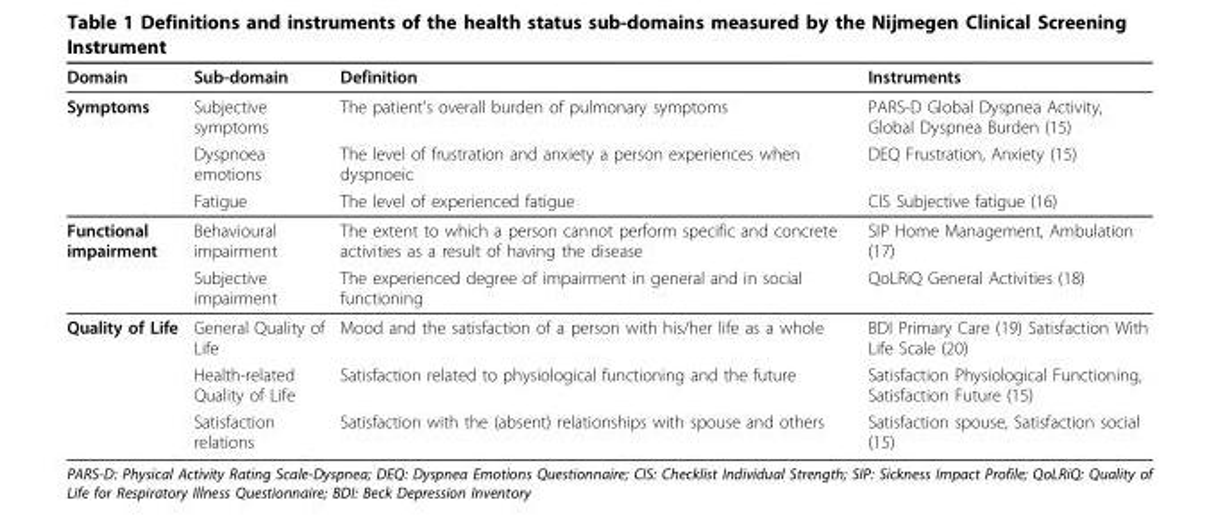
<table><thead><tr><td>Domain</td><td>Sub-domain</td><td>Definition</td><td>Instruments</td></tr></thead><tbody><tr><td rowspan="3">Symptoms</td><td>Subjective symptoms</td><td>The patient’s overall burden of pulmonary symptoms</td><td>PARS-D Global Dyspnea Activity, Global Dyspnea Burden (15)</td></tr><tr><td>Dyspnoea emotions</td><td>The level of frustration and anxiety a person experiences when dyspnoeic</td><td>DEQ Frustration, Anxiety (15)</td></tr><tr><td>Fatigue</td><td>The level of experienced fatigue</td><td>CIS Subjective fatigue (16)</td></tr><tr><td rowspan="2">Functional impairment</td><td>Behavioural impairment</td><td>The extent to which a person cannot perform specific and concrete activities as a result of having the disease</td><td>SIP Home Management, Ambulation (17)</td></tr><tr><td>Subjective impairment</td><td>The experienced degree of impairment in general and in social functioning</td><td>QoLRiQ General Activities (18)</td></tr><tr><td rowspan="3">Quality of Life</td><td>General Quality of Life</td><td>Mood and the satisfaction of a person with his/her life as a whole</td><td>BDI Primary Care (19) Satisfaction With Life Scale (20)</td></tr><tr><td>Health-related Quality of Life</td><td>Satisfaction related to physiological functioning and the future</td><td>Satisfaction Physiological Functioning, Satisfaction Future (15)</td></tr><tr><td>Satisfaction relations</td><td>Satisfaction with the (absent) relationships with spouse and others</td><td>Satisfaction spouse, Satisfaction social (15)</td></tr></tbody></table>